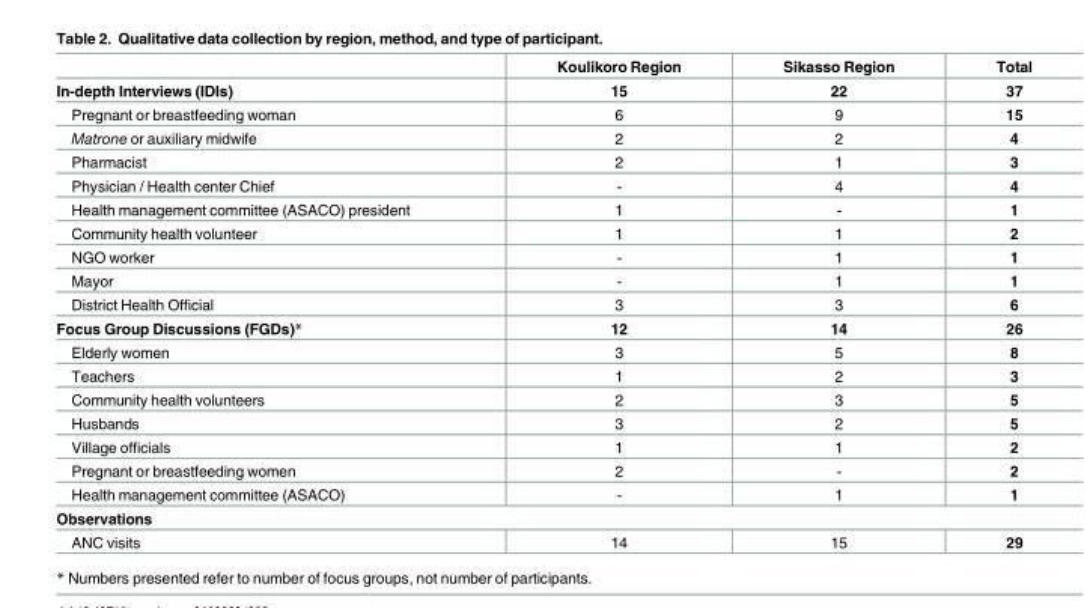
<table><thead><tr><td></td><td>Koulikoro Region</td><td>Sikasso Region</td><td>Total</td></tr></thead><tbody><tr><td>In-depth Interviews (IDIs)</td><td>15</td><td>22</td><td>37</td></tr><tr><td>Pregnant or breastfeeding woman</td><td>6</td><td>9</td><td>15</td></tr><tr><td>Matrone or auxiliary midwife</td><td>2</td><td>2</td><td>4</td></tr><tr><td>Pharmacist</td><td>2</td><td>1</td><td>3</td></tr><tr><td>Physician / Health center Chief</td><td>-</td><td>4</td><td>4</td></tr><tr><td>Health management committee (ASACO) president</td><td>1</td><td>-</td><td>1</td></tr><tr><td>Community health volunteer</td><td>1</td><td>1</td><td>2</td></tr><tr><td>NGO worker</td><td>-</td><td>1</td><td>1</td></tr><tr><td>Mayor</td><td>-</td><td>1</td><td>1</td></tr><tr><td>District Health Official</td><td>3</td><td>3</td><td>6</td></tr><tr><td>Focus Group Discussions (FGDs)*</td><td>12</td><td>14</td><td>26</td></tr><tr><td>Elderly women</td><td>3</td><td>5</td><td>8</td></tr><tr><td>Teachers</td><td>1</td><td>2</td><td>3</td></tr><tr><td>Community health volunteers</td><td>2</td><td>3</td><td>5</td></tr><tr><td>Husbands</td><td>3</td><td>2</td><td>5</td></tr><tr><td>Village officials</td><td>1</td><td>1</td><td>2</td></tr><tr><td>Pregnant or breastfeeding women</td><td>2</td><td>-</td><td>2</td></tr><tr><td>Health management committee (ASACO)</td><td>-</td><td>1</td><td>1</td></tr><tr><td colspan="4">Observations</td></tr><tr><td>ANC visits</td><td>14</td><td>15</td><td>29</td></tr></tbody></table>